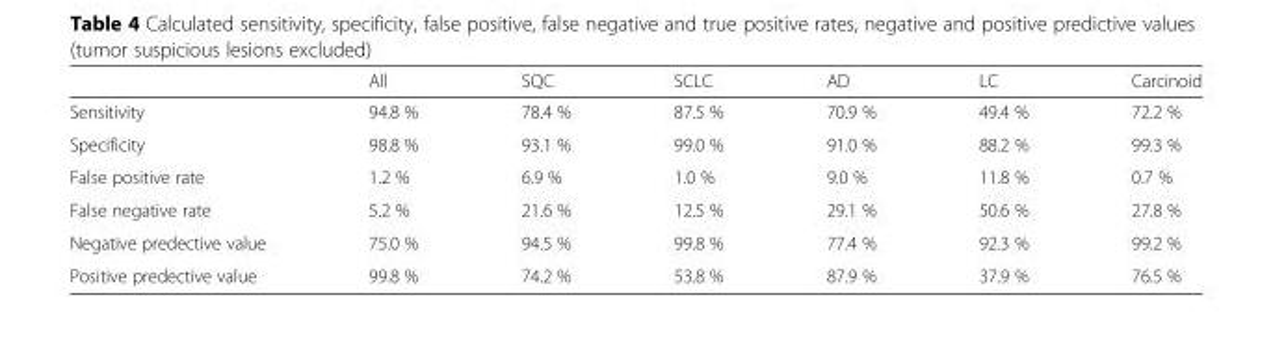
<table><thead><tr><td></td><td>All</td><td>SQC</td><td>SCLC</td><td>AD</td><td>LC</td><td>Carcinoid</td></tr></thead><tbody><tr><td>Sensitivity</td><td>94.8 %</td><td>78.4 %</td><td>87.5 %</td><td>70.9 %</td><td>49.4 %</td><td>72.2 %</td></tr><tr><td>Specificity</td><td>98.8 %</td><td>93.1 %</td><td>99.0 %</td><td>91.0 %</td><td>88.2 %</td><td>99.3 %</td></tr><tr><td>False positive rate</td><td>1.2 %</td><td>6.9 %</td><td>1.0 %</td><td>9.0 %</td><td>11.8 %</td><td>0.7 %</td></tr><tr><td>False negative rate</td><td>5.2 %</td><td>21.6 %</td><td>12.5 %</td><td>29.1 %</td><td>50.6 %</td><td>27.8 %</td></tr><tr><td>Negative predective value</td><td>75.0 %</td><td>94.5 %</td><td>99.8 %</td><td>77.4 %</td><td>92.3 %</td><td>99.2 %</td></tr><tr><td>Positive predective value</td><td>99.8 %</td><td>74.2 %</td><td>53.8 %</td><td>87.9 %</td><td>37.9 %</td><td>76.5 %</td></tr></tbody></table>